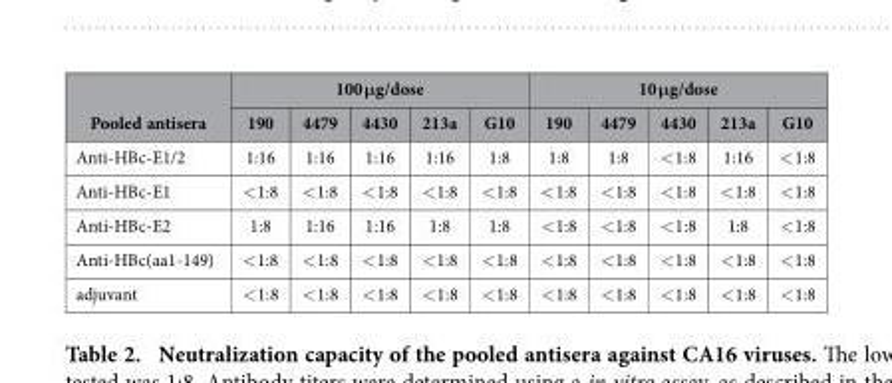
<table><thead><tr><td rowspan="2">Pooled antisera</td><td colspan="5">100 μg/dose</td><td colspan="5">10 μg/dose</td></tr><tr><td>190</td><td>4479</td><td>4430</td><td>213a</td><td>G10</td><td>190</td><td>4479</td><td>4430</td><td>213a</td><td>G10</td></tr></thead><tbody><tr><td>Anti-HBc-E1/2</td><td>1:16</td><td>1:16</td><td>1:16</td><td>1:16</td><td>1:8</td><td>1:8</td><td>1:8</td><td>&lt; 1:8</td><td>1:16</td><td>&lt; 1:8</td></tr><tr><td>Anti-HBc-E1</td><td>&lt; 1:8</td><td>&lt; 1:8</td><td>&lt; 1:8</td><td>&lt; 1:8</td><td>&lt; 1:8</td><td>&lt; 1:8</td><td>&lt; 1:8</td><td>&lt; 1:8</td><td>&lt; 1:8</td><td>&lt; 1:8</td></tr><tr><td>Anti-HBc-E2</td><td>1:8</td><td>1:16</td><td>1:16</td><td>1:8</td><td>1:8</td><td>&lt; 1:8</td><td>&lt; 1:8</td><td>&lt; 1:8</td><td>1:8</td><td>&lt; 1:8</td></tr><tr><td>Anti-HBc(aa1-149)</td><td>&lt; 1:8</td><td>&lt; 1:8</td><td>&lt; 1:8</td><td>&lt; 1:8</td><td>&lt; 1:8</td><td>&lt; 1:8</td><td>&lt; 1:8</td><td>&lt; 1:8</td><td>&lt; 1:8</td><td>&lt; 1:8</td></tr><tr><td>adjuvant</td><td>&lt; 1:8</td><td>&lt; 1:8</td><td>&lt; 1:8</td><td>&lt; 1:8</td><td>&lt; 1:8</td><td>&lt; 1:8</td><td>&lt; 1:8</td><td>&lt; 1:8</td><td>&lt; 1:8</td><td>&lt; 1:8</td></tr></tbody></table>